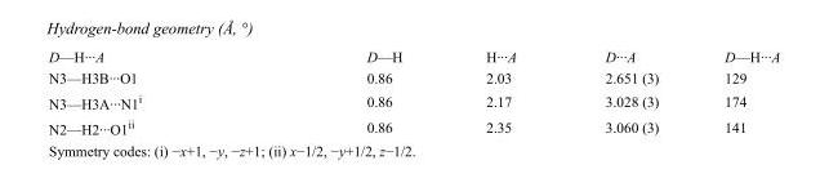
<table><tbody><tr><td>D—H···A</td><td>D—H</td><td>H···A</td><td>D···A</td><td>D—H···A</td></tr><tr><td>N3—H3B···O1</td><td>0.86</td><td>2.03</td><td>2.651 (3)</td><td>129</td></tr><tr><td>N3—H3A···N1<sup>i</sup></td><td>0.86</td><td>2.17</td><td>3.028 (3)</td><td>174</td></tr><tr><td>N2—H2···O1<sup>ii</sup></td><td>0.86</td><td>2.35</td><td>3.060 (3)</td><td>141</td></tr></tbody></table>